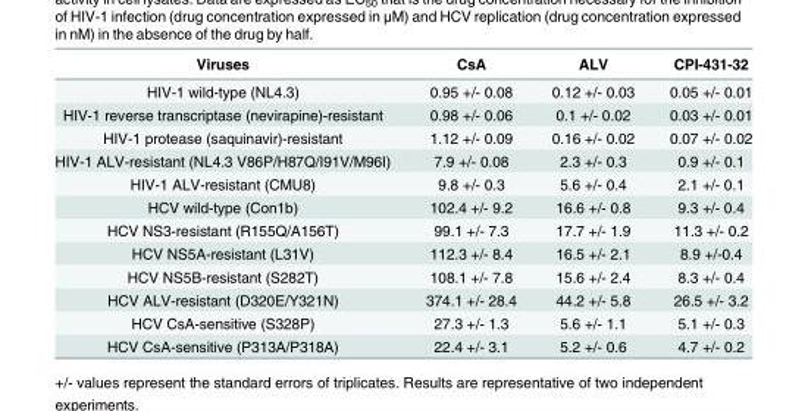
<table><thead><tr><td>Viruses</td><td>CsA</td><td>ALV</td><td>CPI-431-32</td></tr></thead><tbody><tr><td>HIV-1 wild-type (NL4.3)</td><td>0.95 +/- 0.08</td><td>0.12 +/- 0.03</td><td>0.05 +/- 0.01</td></tr><tr><td>HIV-1 reverse transcriptase (nevirapine)-resistant</td><td>0.98 +/- 0.06</td><td>0.1 +/- 0.02</td><td>0.03 +/- 0.01</td></tr><tr><td>HIV-1 protease (saquinavir)-resistant</td><td>1.12 +/- 0.09</td><td>0.16 +/- 0.02</td><td>0.07 +/- 0.02</td></tr><tr><td>HIV-1 ALV-resistant (NL4.3 V86P/H87Q/I91V/M96I)</td><td>7.9 +/- 0.08</td><td>2.3 +/- 0.3</td><td>0.9 +/- 0.1</td></tr><tr><td>HIV-1 ALV-resistant (CMU8)</td><td>9.8 +/- 0.3</td><td>5.6 +/- 0.4</td><td>2.1 +/- 0.1</td></tr><tr><td>HCV wild-type (Con1b)</td><td>102.4 +/- 9.2</td><td>16.6 +/- 0.8</td><td>9.3 +/- 0.4</td></tr><tr><td>HCV NS3-resistant (R155Q/A156T)</td><td>99.1 +/- 7.3</td><td>17.7 +/- 1.9</td><td>11.3 +/- 0.2</td></tr><tr><td>HCV NS5A-resistant (L31V)</td><td>112.3 +/- 8.4</td><td>16.5 +/- 2.1</td><td>8.9 +/-0.4</td></tr><tr><td>HCV NS5B-resistant (S282T)</td><td>108.1 +/- 7.8</td><td>15.6 +/- 2.4</td><td>8.3 +/- 0.4</td></tr><tr><td>HCV ALV-resistant (D320E/Y321N)</td><td>374.1 +/- 28.4</td><td>44.2 +/- 5.8</td><td>26.5 +/- 3.2</td></tr><tr><td>HCV CsA-sensitive (S328P)</td><td>27.3 +/- 1.3</td><td>5.6 +/- 1.1</td><td>5.1 +/- 0.3</td></tr><tr><td>HCV CsA-sensitive (P313A/P318A)</td><td>22.4 +/- 3.1</td><td>5.2 +/- 0.6</td><td>4.7 +/- 0.2</td></tr></tbody></table>